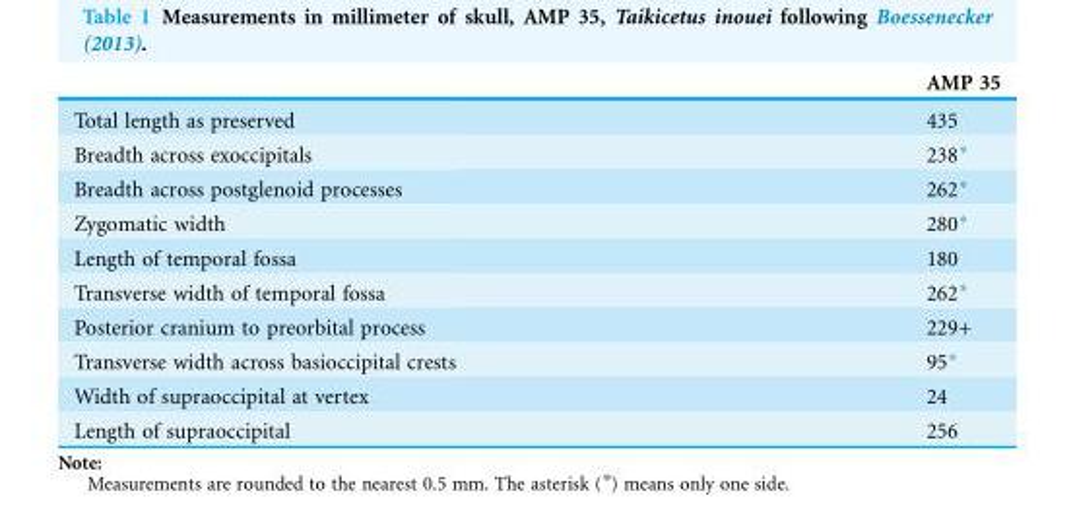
<table><thead><tr><td></td><td>AMP 35</td></tr></thead><tbody><tr><td>Total length as preserved</td><td>435</td></tr><tr><td>Breadth across exoccipitals</td><td>238*</td></tr><tr><td>Breadth across postglenoid processes</td><td>262*</td></tr><tr><td>Zygomatic width</td><td>280*</td></tr><tr><td>Length of temporal fossa</td><td>180</td></tr><tr><td>Transverse width of temporal fossa</td><td>262*</td></tr><tr><td>Posterior cranium to preorbital process</td><td>229+</td></tr><tr><td>Transverse width across basioccipital crests</td><td>95*</td></tr><tr><td>Width of supraoccipital at vertex</td><td>24</td></tr><tr><td>Length of supraoccipital</td><td>256</td></tr></tbody></table>